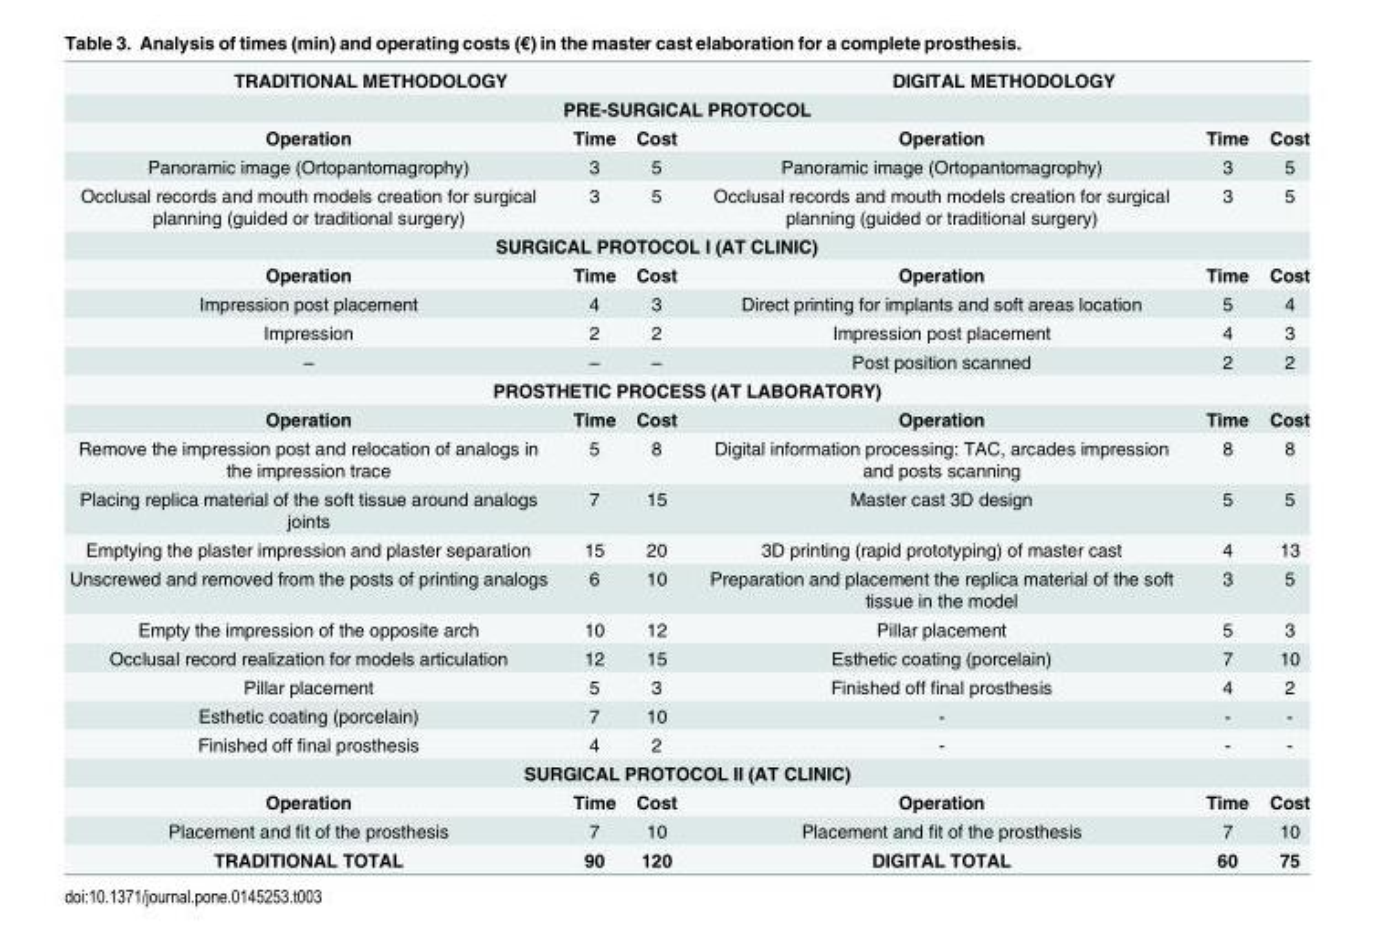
<table><tbody><tr><td colspan="3">TRADITIONAL METHODOLOGY</td><td colspan="3">DIGITAL METHODOLOGY</td></tr><tr><td colspan="6">PRE-SURGICAL PROTOCOL</td></tr><tr><td>Operation</td><td>Time</td><td>Cost</td><td>Operation</td><td>Time</td><td>Cost</td></tr><tr><td>Panoramic image (Ortopantomagrophy)</td><td>3</td><td>5</td><td>Panoramic image (Ortopantomagrophy)</td><td>3</td><td>5</td></tr><tr><td>Occlusal records and mouth models creation for surgical planning (guided or traditional surgery)</td><td>3</td><td>5</td><td>Occlusal records and mouth models creation for surgical planning (guided or traditional surgery)</td><td>3</td><td>5</td></tr><tr><td colspan="6">SURGICAL PROTOCOL I (AT CLINIC)</td></tr><tr><td>Operation</td><td>Time</td><td>Cost</td><td>Operation</td><td>Time</td><td>Cost</td></tr><tr><td>Impression post placement</td><td>4</td><td>3</td><td>Direct printing for implants and soft areas location</td><td>5</td><td>4</td></tr><tr><td>Impression</td><td>2</td><td>2</td><td>Impression post placement</td><td>4</td><td>3</td></tr><tr><td>–</td><td>–</td><td>–</td><td>Post position scanned</td><td>2</td><td>2</td></tr><tr><td colspan="6">PROSTHETIC PROCESS (AT LABORATORY)</td></tr><tr><td>Operation</td><td>Time</td><td>Cost</td><td>Operation</td><td>Time</td><td>Cost</td></tr><tr><td>Remove the impression post and relocation of analogs in the impression trace</td><td>5</td><td>8</td><td>Digital information processing: TAC, arcades impression and posts scanning</td><td>8</td><td>8</td></tr><tr><td>Placing replica material of the soft tissue around analogs joints</td><td>7</td><td>15</td><td>Master cast 3D design</td><td>5</td><td>5</td></tr><tr><td>Emptying the plaster impression and plaster separation</td><td>15</td><td>20</td><td>3D printing (rapid prototyping) of master cast</td><td>4</td><td>13</td></tr><tr><td>Unscrewed and removed from the posts of printing analogs</td><td>6</td><td>10</td><td>Preparation and placement the replica material of the soft tissue in the model</td><td>3</td><td>5</td></tr><tr><td>Empty the impression of the opposite arch</td><td>10</td><td>12</td><td>Pillar placement</td><td>5</td><td>3</td></tr><tr><td>Occlusal record realization for models articulation</td><td>12</td><td>15</td><td>Esthetic coating (porcelain)</td><td>7</td><td>10</td></tr><tr><td>Pillar placement</td><td>5</td><td>3</td><td>Finished off final prosthesis</td><td>4</td><td>2</td></tr><tr><td>Esthetic coating (porcelain)</td><td>7</td><td>10</td><td>-</td><td>-</td><td>-</td></tr><tr><td>Finished off final prosthesis</td><td>4</td><td>2</td><td>-</td><td>-</td><td>-</td></tr><tr><td colspan="6">SURGICAL PROTOCOL II (AT CLINIC)</td></tr><tr><td>Operation</td><td>Time</td><td>Cost</td><td>Operation</td><td>Time</td><td>Cost</td></tr><tr><td>Placement and fit of the prosthesis</td><td>7</td><td>10</td><td>Placement and fit of the prosthesis</td><td>7</td><td>10</td></tr><tr><td>TRADITIONAL TOTAL</td><td>90</td><td>120</td><td>DIGITAL TOTAL</td><td>60</td><td>75</td></tr></tbody></table>